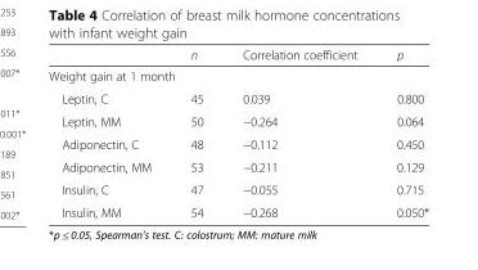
<table><thead><tr><td></td><td>n</td><td>Correlation coefficient</td><td>p</td></tr></thead><tbody><tr><td colspan="4">Weight gain at 1 month</td></tr><tr><td>Leptin, C</td><td>45</td><td>0.039</td><td>0.800</td></tr><tr><td>Leptin, MM</td><td>50</td><td>−0.264</td><td>0.064</td></tr><tr><td>Adiponectin, C</td><td>48</td><td>−0.112</td><td>0.450</td></tr><tr><td>Adiponectin, MM</td><td>53</td><td>−0.211</td><td>0.129</td></tr><tr><td>Insulin, C</td><td>47</td><td>−0.055</td><td>0.715</td></tr><tr><td>Insulin, MM</td><td>54</td><td>−0.268</td><td>0.050*</td></tr></tbody></table>